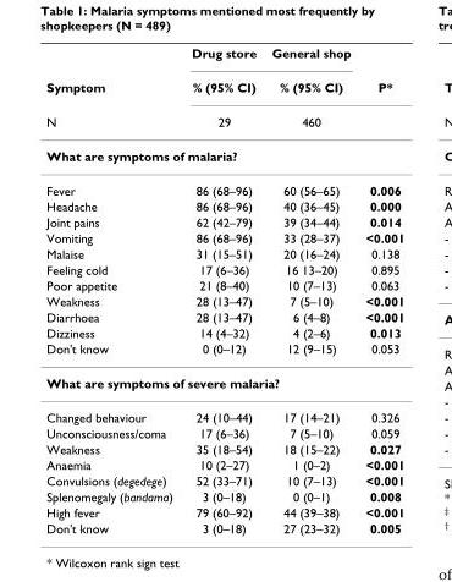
<table><thead><tr><td rowspan="3">Symptom N</td><td rowspan="3">Drug store % (95% CI) 29</td><td rowspan="3">General shop % (95% CI) 460</td><td rowspan="3">P*</td></tr><tr></tr><tr></tr></thead><tbody><tr><td colspan="4">What are symptoms of malaria?</td></tr><tr><td>Fever</td><td>86 (68–96)</td><td>60 (56–65)</td><td>0.006</td></tr><tr><td>Headache</td><td>86 (68–96)</td><td>40 (36–45)</td><td>0.000</td></tr><tr><td>Joint pains</td><td>62 (42–79)</td><td>39 (34–44)</td><td>0.014</td></tr><tr><td>Vomiting</td><td>86 (68–96)</td><td>33 (28–37)</td><td>&lt;0.001</td></tr><tr><td>Malaise</td><td>31 (15–51)</td><td>20 (16–24)</td><td>0.138</td></tr><tr><td>Feeling cold</td><td>17 (6–36)</td><td>16 13–20)</td><td>0.895</td></tr><tr><td>Poor appetite</td><td>21 (8–40)</td><td>10 (7–13)</td><td>0.063</td></tr><tr><td>Weakness</td><td>28 (13–47)</td><td>7 (5–10)</td><td>&lt;0.001</td></tr><tr><td>Diarrhoea</td><td>28 (13–47)</td><td>6 (4–8)</td><td>&lt;0.001</td></tr><tr><td>Dizziness</td><td>14 (4–32)</td><td>4 (2–6)</td><td>0.013</td></tr><tr><td>Don&#x27;t know</td><td>0 (0–12)</td><td>12 (9–15)</td><td>0.053</td></tr><tr><td colspan="4">What are symptoms of severe malaria?</td></tr><tr><td>Changed behaviour</td><td>24 (10–44)</td><td>17 (14–21)</td><td>0.326</td></tr><tr><td>Unconsciousness/coma</td><td>17 (6–36)</td><td>7 (5–10)</td><td>0.059</td></tr><tr><td>Weakness</td><td>35 (18–54)</td><td>18 (15–22)</td><td>0.027</td></tr><tr><td>Anaemia</td><td>10 (2–27)</td><td>1 (0–2)</td><td>&lt;0.001</td></tr><tr><td>Convulsions (degedege)</td><td>52 (33–71)</td><td>10 (7–13)</td><td>&lt;0.001</td></tr><tr><td>Splenomegaly (bandama)</td><td>3 (0–18)</td><td>0 (0–1)</td><td>0.008</td></tr><tr><td>High fever</td><td>79 (60–92)</td><td>44 (39–38)</td><td>&lt;0.001</td></tr><tr><td>Don&#x27;t know</td><td>3 (0–18)</td><td>27 (23–32)</td><td>0.005</td></tr></tbody></table>